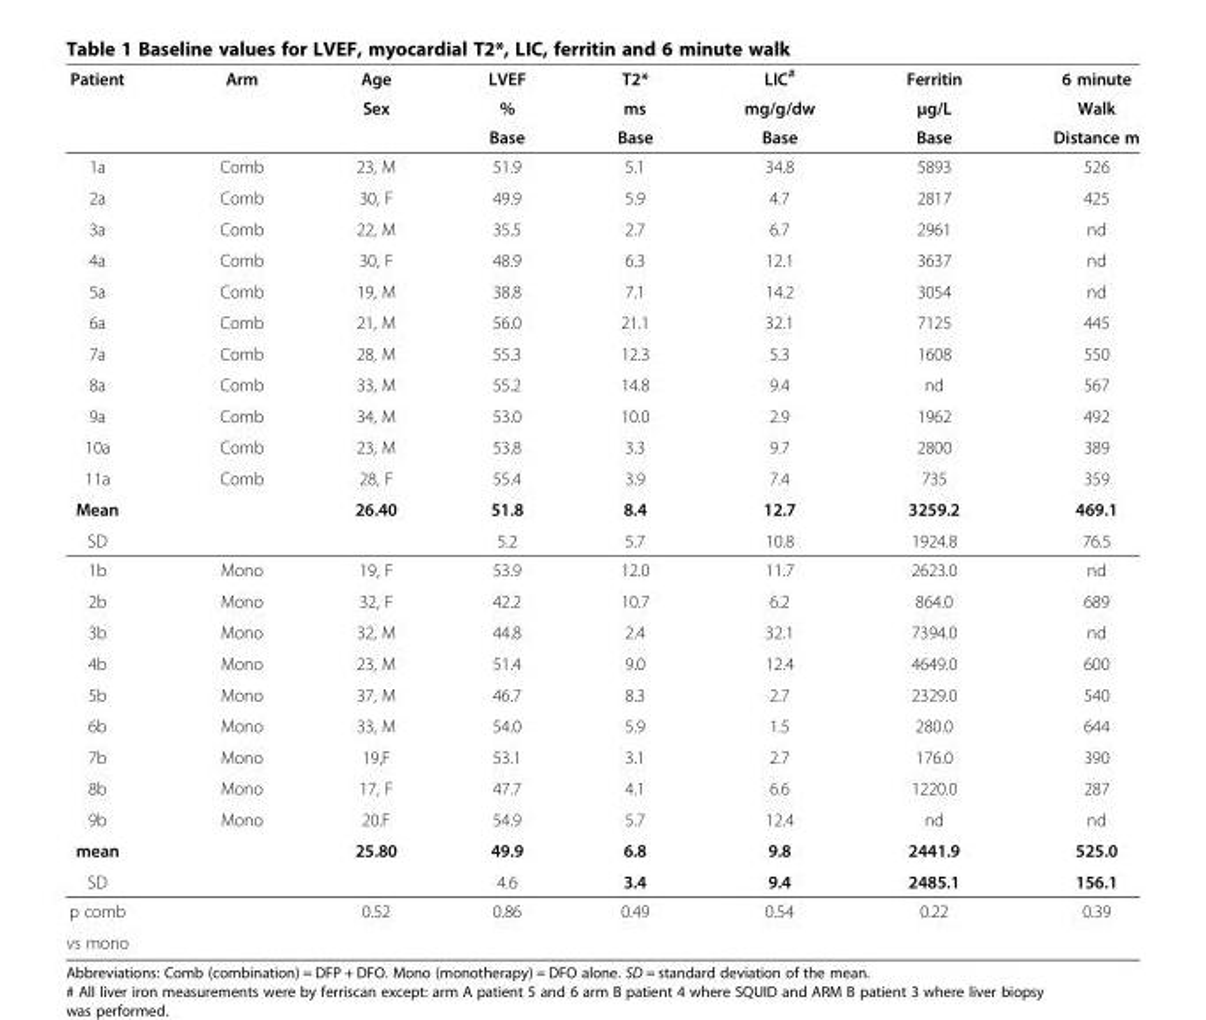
<table><thead><tr><td rowspan="3">Patient</td><td rowspan="3">Arm</td><td rowspan="3">Age Sex</td><td rowspan="3">LVEF % Base</td><td rowspan="3">T2* ms Base</td><td rowspan="3">LIC<sup>#</sup> mg/g/dw Base</td><td rowspan="3">Ferritin μg/L Base</td><td rowspan="3">6 minute Walk Distance m</td></tr><tr></tr><tr></tr></thead><tbody><tr><td>1a</td><td>Comb</td><td>23, M</td><td>51.9</td><td>5.1</td><td>34.8</td><td>5893</td><td>526</td></tr><tr><td>2a</td><td>Comb</td><td>30, F</td><td>49.9</td><td>5.9</td><td>4.7</td><td>2817</td><td>425</td></tr><tr><td>3a</td><td>Comb</td><td>22, M</td><td>35.5</td><td>2.7</td><td>6.7</td><td>2961</td><td>nd</td></tr><tr><td>4a</td><td>Comb</td><td>30, F</td><td>48.9</td><td>6.3</td><td>12.1</td><td>3637</td><td>nd</td></tr><tr><td>5a</td><td>Comb</td><td>19, M</td><td>38.8</td><td>7.1</td><td>14.2</td><td>3054</td><td>nd</td></tr><tr><td>6a</td><td>Comb</td><td>21, M</td><td>56.0</td><td>21.1</td><td>32.1</td><td>7125</td><td>445</td></tr><tr><td>7a</td><td>Comb</td><td>28, M</td><td>55.3</td><td>12.3</td><td>5.3</td><td>1608</td><td>550</td></tr><tr><td>8a</td><td>Comb</td><td>33, M</td><td>55.2</td><td>14.8</td><td>9.4</td><td>nd</td><td>567</td></tr><tr><td>9a</td><td>Comb</td><td>34, M</td><td>53.0</td><td>10.0</td><td>2.9</td><td>1962</td><td>492</td></tr><tr><td>10a</td><td>Comb</td><td>23, M</td><td>53.8</td><td>3.3</td><td>9.7</td><td>2800</td><td>389</td></tr><tr><td>11a</td><td>Comb</td><td>28, F</td><td>55.4</td><td>3.9</td><td>7.4</td><td>735</td><td>359</td></tr><tr><td>Mean</td><td></td><td>26.40</td><td>51.8</td><td>8.4</td><td>12.7</td><td>3259.2</td><td>469.1</td></tr><tr><td>SD</td><td></td><td></td><td>5.2</td><td>5.7</td><td>10.8</td><td>1924.8</td><td>76.5</td></tr><tr><td>1b</td><td>Mono</td><td>19, F</td><td>53.9</td><td>12.0</td><td>11.7</td><td>2623.0</td><td>nd</td></tr><tr><td>2b</td><td>Mono</td><td>32, F</td><td>42.2</td><td>10.7</td><td>6.2</td><td>864.0</td><td>689</td></tr><tr><td>3b</td><td>Mono</td><td>32, M</td><td>44.8</td><td>2.4</td><td>32.1</td><td>7394.0</td><td>nd</td></tr><tr><td>4b</td><td>Mono</td><td>23, M</td><td>51.4</td><td>9.0</td><td>12.4</td><td>4649.0</td><td>600</td></tr><tr><td>5b</td><td>Mono</td><td>37, M</td><td>46.7</td><td>8.3</td><td>2.7</td><td>2329.0</td><td>540</td></tr><tr><td>6b</td><td>Mono</td><td>33, M</td><td>54.0</td><td>5.9</td><td>1.5</td><td>280.0</td><td>644</td></tr><tr><td>7b</td><td>Mono</td><td>19,F</td><td>53.1</td><td>3.1</td><td>2.7</td><td>176.0</td><td>390</td></tr><tr><td>8b</td><td>Mono</td><td>17, F</td><td>47.7</td><td>4.1</td><td>6.6</td><td>1220.0</td><td>287</td></tr><tr><td>9b</td><td>Mono</td><td>20.F</td><td>54.9</td><td>5.7</td><td>12.4</td><td>nd</td><td>nd</td></tr><tr><td>mean</td><td></td><td>25.80</td><td>49.9</td><td>6.8</td><td>9.8</td><td>2441.9</td><td>525.0</td></tr><tr><td>SD</td><td></td><td></td><td>4.6</td><td>3.4</td><td>9.4</td><td>2485.1</td><td>156.1</td></tr><tr><td>p comb</td><td></td><td>0.52</td><td>0.86</td><td>0.49</td><td>0.54</td><td>0.22</td><td>0.39</td></tr><tr><td>vs mono</td><td colspan="7"></td></tr></tbody></table>